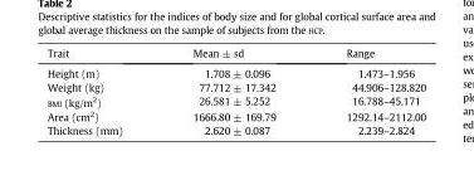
<table><thead><tr><td>Trait</td><td>Mean ± sd</td><td>Range</td></tr></thead><tbody><tr><td>Height (m)</td><td>1.708 ± 0.096</td><td>1.473–1.956</td></tr><tr><td>Weight (kg)</td><td>77.712 ± 17.342</td><td>44.906–128.820</td></tr><tr><td>BMI (kg/m<sup>2</sup>)</td><td>26.581 ± 5.252</td><td>16.788–45.171</td></tr><tr><td>Area (cm<sup>2</sup>)</td><td>1666.80 ± 169.79</td><td>1292.14–2112.00</td></tr><tr><td>Thickness (mm)</td><td>2.620 ± 0.087</td><td>2.239–2.824</td></tr></tbody></table>